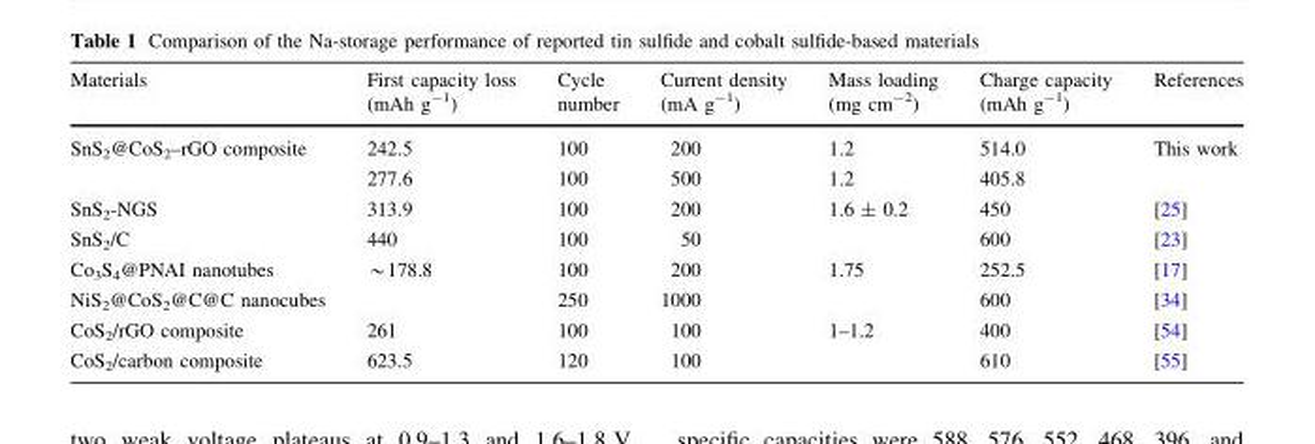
<table><thead><tr><td>Materials</td><td>First capacity loss (mAh g<sup>-1</sup>)</td><td>Cycle number</td><td>Current density (mA g<sup>-1</sup>)</td><td>Mass loading (mg cm<sup>-2</sup>)</td><td>Charge capacity (mAh g<sup>-1</sup>)</td><td>References</td></tr></thead><tbody><tr><td rowspan="2">SnS<sub>2</sub>@CoS<sub>2</sub>–rGO composite</td><td>242.5</td><td>100</td><td>200</td><td>1.2</td><td>514.0</td><td rowspan="2">This work</td></tr><tr><td>277.6</td><td>100</td><td>500</td><td>1.2</td><td>405.8</td></tr><tr><td>SnS<sub>2</sub>-NGS</td><td>313.9</td><td>100</td><td>200</td><td>1.6 ± 0.2</td><td>450</td><td>[25]</td></tr><tr><td>SnS<sub>2</sub>/C</td><td>440</td><td>100</td><td>50</td><td></td><td>600</td><td>[23]</td></tr><tr><td>Co<sub>3</sub>S<sub>4</sub>@PNAI nanotubes</td><td>*178.8</td><td>100</td><td>200</td><td>1.75</td><td>252.5</td><td>[17]</td></tr><tr><td>NiS<sub>2</sub>@CoS<sub>2</sub>@C@C nanocubes</td><td></td><td>250</td><td>1000</td><td></td><td>600</td><td>[34]</td></tr><tr><td>CoS<sub>2</sub>/rGO composite</td><td>261</td><td>100</td><td>100</td><td>1–1.2</td><td>400</td><td>[54]</td></tr><tr><td>CoS<sub>2</sub>/carbon composite</td><td>623.5</td><td>120</td><td>100</td><td></td><td>610</td><td>[55]</td></tr></tbody></table>